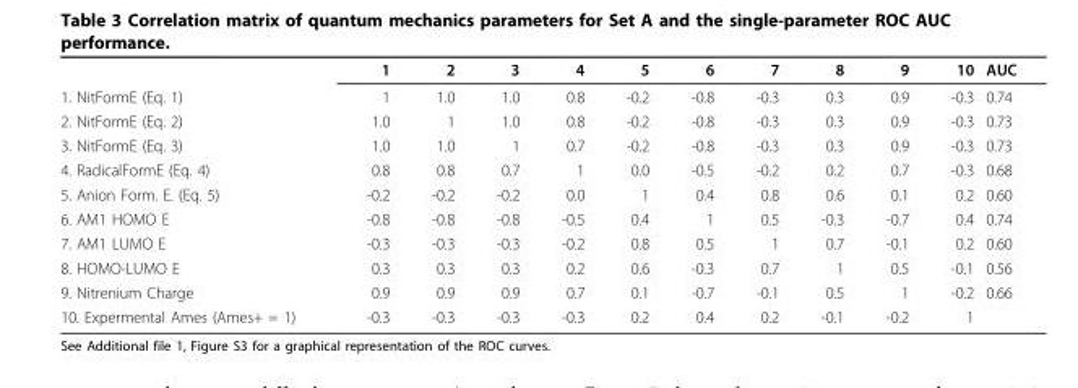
<table><thead><tr><td></td><td>1</td><td>2</td><td>3</td><td>4</td><td>5</td><td>6</td><td>7</td><td>8</td><td>9</td><td>10</td><td>AUC</td></tr></thead><tbody><tr><td>1. NitFormE (Eq. 1)</td><td>1</td><td>1.0</td><td>1.0</td><td>0.8</td><td>-0.2</td><td>-0.8</td><td>-0.3</td><td>0.3</td><td>0.9</td><td>-0.3</td><td>0.74</td></tr><tr><td>2. NitFormE (Eq. 2)</td><td>1.0</td><td>1</td><td>1.0</td><td>0.8</td><td>-0.2</td><td>-0.8</td><td>-0.3</td><td>0.3</td><td>0.9</td><td>-0.3</td><td>0.73</td></tr><tr><td>3. NitFormE (Eq. 3)</td><td>1.0</td><td>1.0</td><td>1</td><td>0.7</td><td>-0.2</td><td>-0.8</td><td>-0.3</td><td>0.3</td><td>0.9</td><td>-0.3</td><td>0.73</td></tr><tr><td>4. RadicalFormE (Eq. 4)</td><td>0.8</td><td>0.8</td><td>0.7</td><td>1</td><td>0.0</td><td>-0.5</td><td>-0.2</td><td>0.2</td><td>0.7</td><td>-0.3</td><td>0.68</td></tr><tr><td>5. Anion Form. E. (Eq. 5)</td><td>-0.2</td><td>-0.2</td><td>-0.2</td><td>0.0</td><td>1</td><td>0.4</td><td>0.8</td><td>0.6</td><td>0.1</td><td>0.2</td><td>0.60</td></tr><tr><td>6. AM1 HOMO E</td><td>-0.8</td><td>-0.8</td><td>-0.8</td><td>-0.5</td><td>0.4</td><td>1</td><td>0.5</td><td>-0.3</td><td>-0.7</td><td>0.4</td><td>0.74</td></tr><tr><td>7. AM1 LUMO E</td><td>-0.3</td><td>-0.3</td><td>-0.3</td><td>-0.2</td><td>0.8</td><td>0.5</td><td>1</td><td>0.7</td><td>-0.1</td><td>0.2</td><td>0.60</td></tr><tr><td>8. HOMO-LUMO E</td><td>0.3</td><td>0.3</td><td>0.3</td><td>0.2</td><td>0.6</td><td>-0.3</td><td>0.7</td><td>1</td><td>0.5</td><td>-0.1</td><td>0.56</td></tr><tr><td>9. Nitrenium Charge</td><td>0.9</td><td>0.9</td><td>0.9</td><td>0.7</td><td>0.1</td><td>-0.7</td><td>-0.1</td><td>0.5</td><td>1</td><td>-0.2</td><td>0.66</td></tr><tr><td>10. Expermental Ames (Ames+ = 1)</td><td>-0.3</td><td>-0.3</td><td>-0.3</td><td>-0.3</td><td>0.2</td><td>0.4</td><td>0.2</td><td>-0.1</td><td>-0.2</td><td>1</td><td></td></tr></tbody></table>